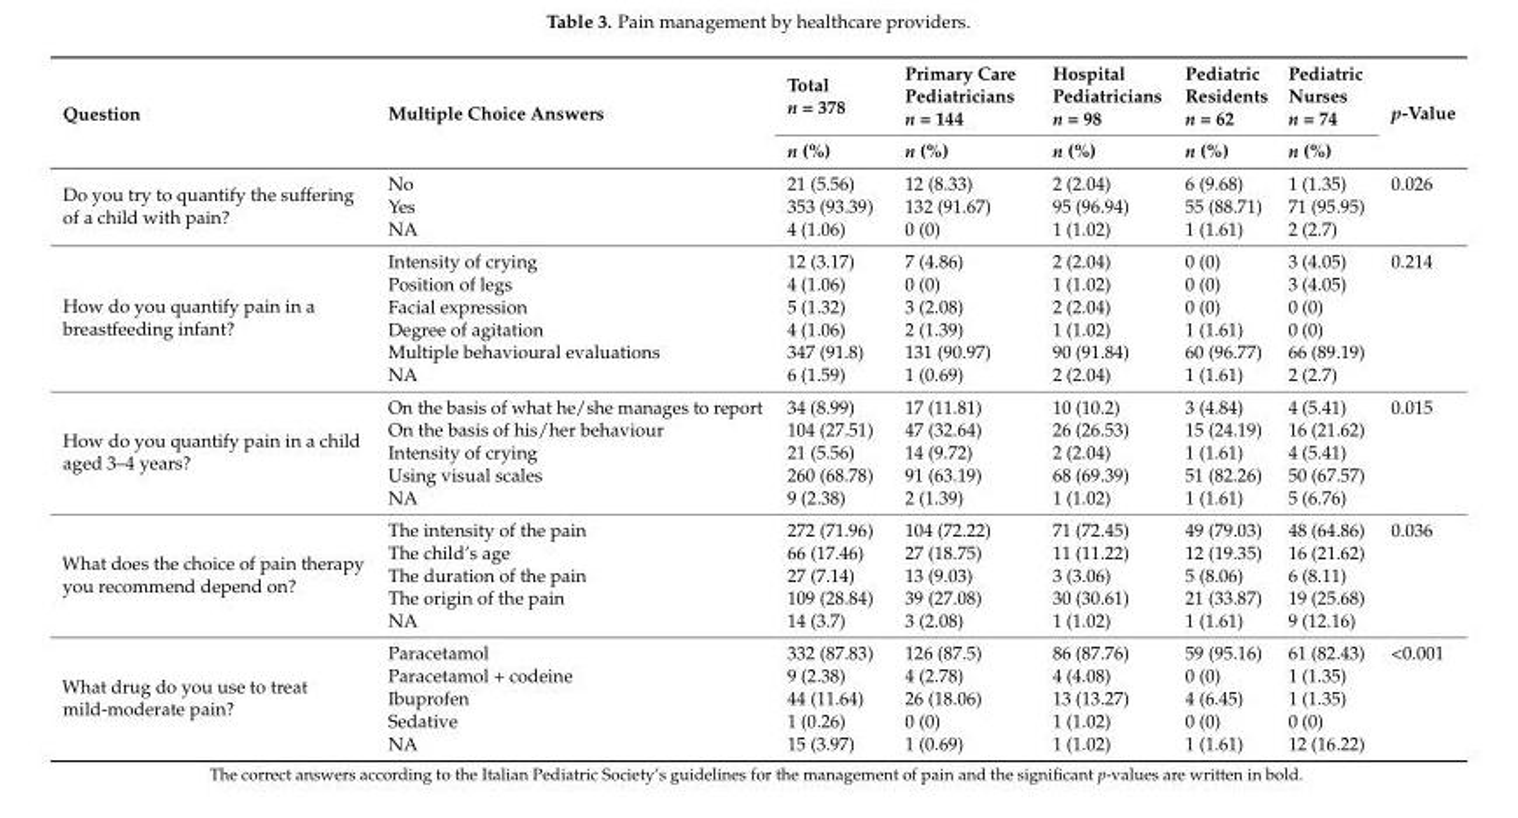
<table><thead><tr><td rowspan="2">Question</td><td rowspan="2">Multiple Choice Answers</td><td rowspan="2">Total n = 378 n (%)</td><td rowspan="2">Primary Care Pediatricians n = 144 n (%)</td><td rowspan="2">Hospital Pediatricians n = 98 n (%)</td><td rowspan="2">Pediatric Residents n = 62 n (%)</td><td rowspan="2">Pediatric Nurses n = 74 n (%)</td><td rowspan="2">p-Value</td></tr><tr></tr></thead><tbody><tr><td rowspan="3">Do you try to quantify the suffering of a child with pain?</td><td>No</td><td>21 (5.56)</td><td>12 (8.33)</td><td>2 (2.04)</td><td>6 (9.68)</td><td>1 (1.35)</td><td>0.026</td></tr><tr><td>Yes</td><td>353 (93.39)</td><td>132 (91.67)</td><td>95 (96.94)</td><td>55 (88.71)</td><td>71 (95.95)</td><td></td></tr><tr><td>NA</td><td>4 (1.06)</td><td>0 (0)</td><td>1 (1.02)</td><td>1 (1.61)</td><td>2 (2.7)</td><td></td></tr><tr><td rowspan="6">How do you quantify pain in a breastfeeding infant?</td><td>Intensity of crying</td><td>12 (3.17)</td><td>7 (4.86)</td><td>2 (2.04)</td><td>0 (0)</td><td>3 (4.05)</td><td>0.214</td></tr><tr><td>Position of legs</td><td>4 (1.06)</td><td>0 (0)</td><td>1 (1.02)</td><td>0 (0)</td><td>3 (4.05)</td><td></td></tr><tr><td>Facial expression</td><td>5 (1.32)</td><td>3 (2.08)</td><td>2 (2.04)</td><td>0 (0)</td><td>0 (0)</td><td></td></tr><tr><td>Degree of agitation</td><td>4 (1.06)</td><td>2 (1.39)</td><td>1 (1.02)</td><td>1 (1.61)</td><td>0 (0)</td><td></td></tr><tr><td>Multiple behavioural evaluations</td><td>347 (91.8)</td><td>131 (90.97)</td><td>90 (91.84)</td><td>60 (96.77)</td><td>66 (89.19)</td><td></td></tr><tr><td>NA</td><td>6 (1.59)</td><td>1 (0.69)</td><td>2 (2.04)</td><td>1 (1.61)</td><td>2 (2.7)</td><td></td></tr><tr><td rowspan="5">How do you quantify pain in a child aged 3–4 years?</td><td>On the basis of what he/she manages to report</td><td>34 (8.99)</td><td>17 (11.81)</td><td>10 (10.2)</td><td>3 (4.84)</td><td>4 (5.41)</td><td>0.015</td></tr><tr><td>On the basis of his/her behaviour</td><td>104 (27.51)</td><td>47 (32.64)</td><td>26 (26.53)</td><td>15 (24.19)</td><td>16 (21.62)</td><td></td></tr><tr><td>Intensity of crying</td><td>21 (5.56)</td><td>14 (9.72)</td><td>2 (2.04)</td><td>1 (1.61)</td><td>4 (5.41)</td><td></td></tr><tr><td>Using visual scales</td><td>260 (68.78)</td><td>91 (63.19)</td><td>68 (69.39)</td><td>51 (82.26)</td><td>50 (67.57)</td><td></td></tr><tr><td>NA</td><td>9 (2.38)</td><td>2 (1.39)</td><td>1 (1.02)</td><td>1 (1.61)</td><td>5 (6.76)</td><td></td></tr><tr><td rowspan="5">What does the choice of pain therapy you recommend depend on?</td><td>The intensity of the pain</td><td>272 (71.96)</td><td>104 (72.22)</td><td>71 (72.45)</td><td>49 (79.03)</td><td>48 (64.86)</td><td>0.036</td></tr><tr><td>The child’s age</td><td>66 (17.46)</td><td>27 (18.75)</td><td>11 (11.22)</td><td>12 (19.35)</td><td>16 (21.62)</td><td></td></tr><tr><td>The duration of the pain</td><td>27 (7.14)</td><td>13 (9.03)</td><td>3 (3.06)</td><td>5 (8.06)</td><td>6 (8.11)</td><td></td></tr><tr><td>The origin of the pain</td><td>109 (28.84)</td><td>39 (27.08)</td><td>30 (30.61)</td><td>21 (33.87)</td><td>19 (25.68)</td><td></td></tr><tr><td>NA</td><td>14 (3.7)</td><td>3 (2.08)</td><td>1 (1.02)</td><td>1 (1.61)</td><td>9 (12.16)</td><td></td></tr><tr><td rowspan="5">What drug do you use to treat mild-moderate pain?</td><td>Paracetamol</td><td>332 (87.83)</td><td>126 (87.5)</td><td>86 (87.76)</td><td>59 (95.16)</td><td>61 (82.43)</td><td>&lt;0.001</td></tr><tr><td>Paracetamol + codeine</td><td>9 (2.38)</td><td>4 (2.78)</td><td>4 (4.08)</td><td>0 (0)</td><td>1 (1.35)</td><td></td></tr><tr><td>Ibuprofen</td><td>44 (11.64)</td><td>26 (18.06)</td><td>13 (13.27)</td><td>4 (6.45)</td><td>1 (1.35)</td><td></td></tr><tr><td>Sedative</td><td>1 (0.26)</td><td>0 (0)</td><td>1 (1.02)</td><td>0 (0)</td><td>0 (0)</td><td></td></tr><tr><td>NA</td><td>15 (3.97)</td><td>1 (0.69)</td><td>1 (1.02)</td><td>1 (1.61)</td><td>12 (16.22)</td><td></td></tr></tbody></table>